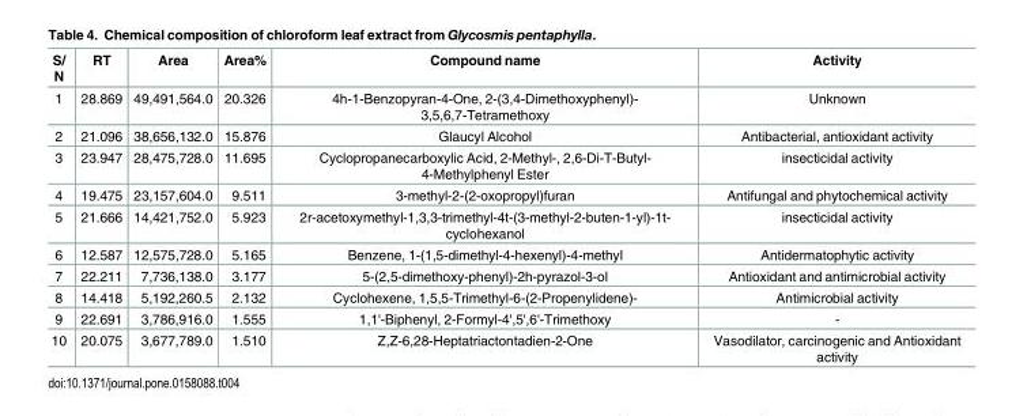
<table><thead><tr><td>S/ N</td><td>RT</td><td>Area</td><td>Area%</td><td>Compound name</td><td>Activity</td></tr></thead><tbody><tr><td>1</td><td>28.869</td><td>49,491,564.0</td><td>20.326</td><td>4h-1-Benzopyran-4-One, 2-(3,4-Dimethoxyphenyl)- 3,5,6,7-Tetramethoxy</td><td>Unknown</td></tr><tr><td>2</td><td>21.096</td><td>38,656,132.0</td><td>15.876</td><td>Glaucyl Alcohol</td><td>Antibacterial, antioxidant activity</td></tr><tr><td>3</td><td>23.947</td><td>28,475,728.0</td><td>11.695</td><td>Cyclopropanecarboxylic Acid, 2-Methyl-, 2,6-Di-T-Butyl- 4-Methylphenyl Ester</td><td>insecticidal activity</td></tr><tr><td>4</td><td>19.475</td><td>23,157,604.0</td><td>9.511</td><td>3-methyl-2-(2-oxopropyl)furan</td><td>Antifungal and phytochemical activity</td></tr><tr><td>5</td><td>21.666</td><td>14,421,752.0</td><td>5.923</td><td>2r-acetoxymethyl-1,3,3-trimethyl-4t-(3-methyl-2-buten-1-yl)-1t- cyclohexanol</td><td>insecticidal activity</td></tr><tr><td>6</td><td>12.587</td><td>12,575,728.0</td><td>5.165</td><td>Benzene, 1-(1,5-dimethyl-4-hexenyl)-4-methyl</td><td>Antidermatophytic activity</td></tr><tr><td>7</td><td>22.211</td><td>7,736,138.0</td><td>3.177</td><td>5-(2,5-dimethoxy-phenyl)-2h-pyrazol-3-ol</td><td>Antioxidant and antimicrobial activity</td></tr><tr><td>8</td><td>14.418</td><td>5,192,260.5</td><td>2.132</td><td>Cyclohexene, 1,5,5-Trimethyl-6-(2-Propenylidene)-</td><td>Antimicrobial activity</td></tr><tr><td>9</td><td>22.691</td><td>3,786,916.0</td><td>1.555</td><td>1,1&#x27;-Biphenyl, 2-Formyl-4&#x27;,5&#x27;,6&#x27;-Trimethoxy</td><td>-</td></tr><tr><td>10</td><td>20.075</td><td>3,677,789.0</td><td>1.510</td><td>Z,Z-6,28-Heptatriactontadien-2-One</td><td>Vasodilator, carcinogenic and Antioxidant activity</td></tr></tbody></table>